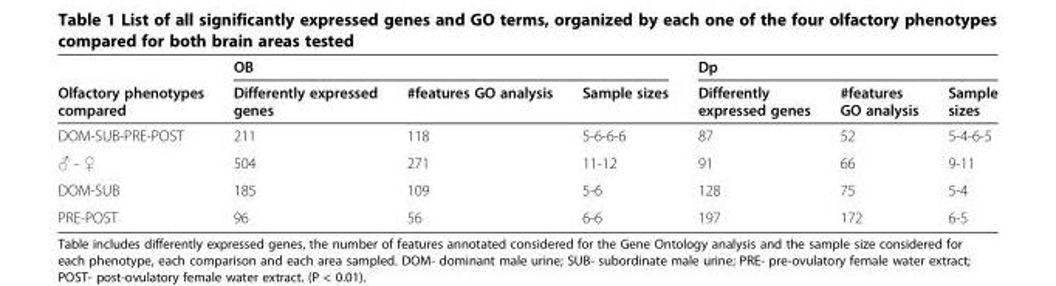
<table><thead><tr><td rowspan="2">Olfactory phenotypes compared</td><td colspan="3">OB</td><td colspan="3">Dp</td></tr><tr><td>Differently expressed genes</td><td>#features GO analysis</td><td>Sample sizes</td><td>Differently expressed genes</td><td>#features GO analysis</td><td>Sample sizes</td></tr></thead><tbody><tr><td>DOM-SUB-PRE-POST</td><td>211</td><td>118</td><td>5-6-6-6</td><td>87</td><td>52</td><td>5-4-6-5</td></tr><tr><td>♂ - ♀</td><td>504</td><td>271</td><td>11-12</td><td>91</td><td>66</td><td>9-11</td></tr><tr><td>DOM-SUB</td><td>185</td><td>109</td><td>5-6</td><td>128</td><td>75</td><td>5-4</td></tr><tr><td>PRE-POST</td><td>96</td><td>56</td><td>6-6</td><td>197</td><td>172</td><td>6-5</td></tr></tbody></table>